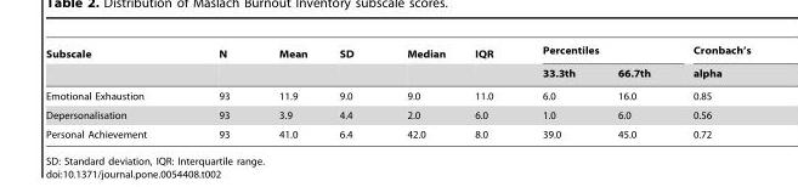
<table><thead><tr><td rowspan="2">Subscale</td><td rowspan="2">N</td><td rowspan="2">Mean</td><td rowspan="2">SD</td><td rowspan="2">Median</td><td rowspan="2">IQR</td><td colspan="2">Percentiles</td><td rowspan="2">Cronbach’s alpha</td></tr><tr><td>33.3th</td><td>66.7th</td></tr></thead><tbody><tr><td>Emotional Exhaustion</td><td>93</td><td>11.9</td><td>9.0</td><td>9.0</td><td>11.0</td><td>6.0</td><td>16.0</td><td>0.85</td></tr><tr><td>Depersonalisation</td><td>93</td><td>3.9</td><td>4.4</td><td>2.0</td><td>6.0</td><td>1.0</td><td>6.0</td><td>0.56</td></tr><tr><td>Personal Achievement</td><td>93</td><td>41.0</td><td>6.4</td><td>42.0</td><td>8.0</td><td>39.0</td><td>45.0</td><td>0.72</td></tr></tbody></table>